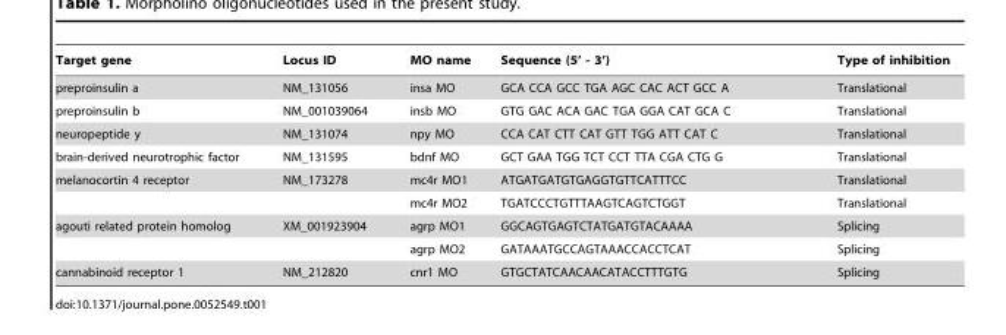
<table><thead><tr><td>Target gene</td><td>Locus ID</td><td>MO name</td><td>Sequence (5’ - 3’)</td><td>Type of inhibition</td></tr></thead><tbody><tr><td>preproinsulin a</td><td>NM_131056</td><td>insa MO</td><td>GCA CCA GCC TGA AGC CAC ACT GCC A</td><td>Translational</td></tr><tr><td>preproinsulin b</td><td>NM_001039064</td><td>insb MO</td><td>GTG GAC ACA GAC TGA GGA CAT GCA C</td><td>Translational</td></tr><tr><td>neuropeptide y</td><td>NM_131074</td><td>npy MO</td><td>CCA CAT CTT CAT GTT TGG ATT CAT C</td><td>Translational</td></tr><tr><td>brain-derived neurotrophic factor</td><td>NM_131595</td><td>bdnf MO</td><td>GCT GAA TGG TCT CCT TTA CGA CTG G</td><td>Translational</td></tr><tr><td rowspan="2">melanocortin 4 receptor</td><td>NM_173278</td><td>mc4r MO1</td><td>ATGATGATGTGAGGTGTTCATTTCC</td><td>Translational</td></tr><tr><td></td><td>mc4r MO2</td><td>TGATCCCTGTTTAAGTCAGTCTGGT</td><td>Translational</td></tr><tr><td rowspan="2">agouti related protein homolog</td><td>XM_001923904</td><td>agrp MO1</td><td>GGCAGTGAGTCTATGATGTACAAAA</td><td>Splicing</td></tr><tr><td></td><td>agrp MO2</td><td>GATAAATGCCAGTAAACCACCTCAT</td><td>Splicing</td></tr><tr><td>cannabinoid receptor 1</td><td>NM_212820</td><td>cnr1 MO</td><td>GTGCTATCAACAACATACCTTTGTG</td><td>Splicing</td></tr></tbody></table>